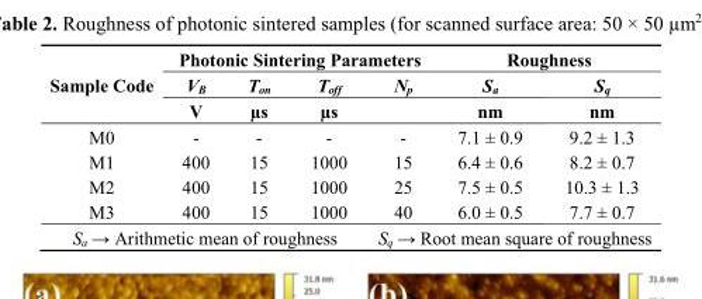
<table><thead><tr><td rowspan="3">Sample Code</td><td colspan="4">Photonic Sintering Parameters</td><td colspan="2">Roughness</td></tr><tr><td rowspan="2">V<sub>B</sub> V</td><td rowspan="2">T<sub>on</sub> µs</td><td rowspan="2">T<sub>off</sub> µs</td><td rowspan="2">N<sub>p</sub></td><td rowspan="2">S<sub>a</sub> nm</td><td rowspan="2">S<sub>q</sub> nm</td></tr><tr></tr></thead><tbody><tr><td>M0</td><td>-</td><td>-</td><td>-</td><td>-</td><td>7.1 ± 0.9</td><td>9.2 ± 1.3</td></tr><tr><td>M1</td><td>400</td><td>15</td><td>1000</td><td>15</td><td>6.4 ± 0.6</td><td>8.2 ± 0.7</td></tr><tr><td>M2</td><td>400</td><td>15</td><td>1000</td><td>25</td><td>7.5 ± 0.5</td><td>10.3 ± 1.3</td></tr><tr><td>M3</td><td>400</td><td>15</td><td>1000</td><td>40</td><td>6.0 ± 0.5</td><td>7.7 ± 0.7</td></tr><tr><td colspan="4">S<sub>a</sub> → Arithmetic mean of roughness</td><td colspan="3">S<sub>q</sub> → Root mean square of roughness</td></tr></tbody></table>